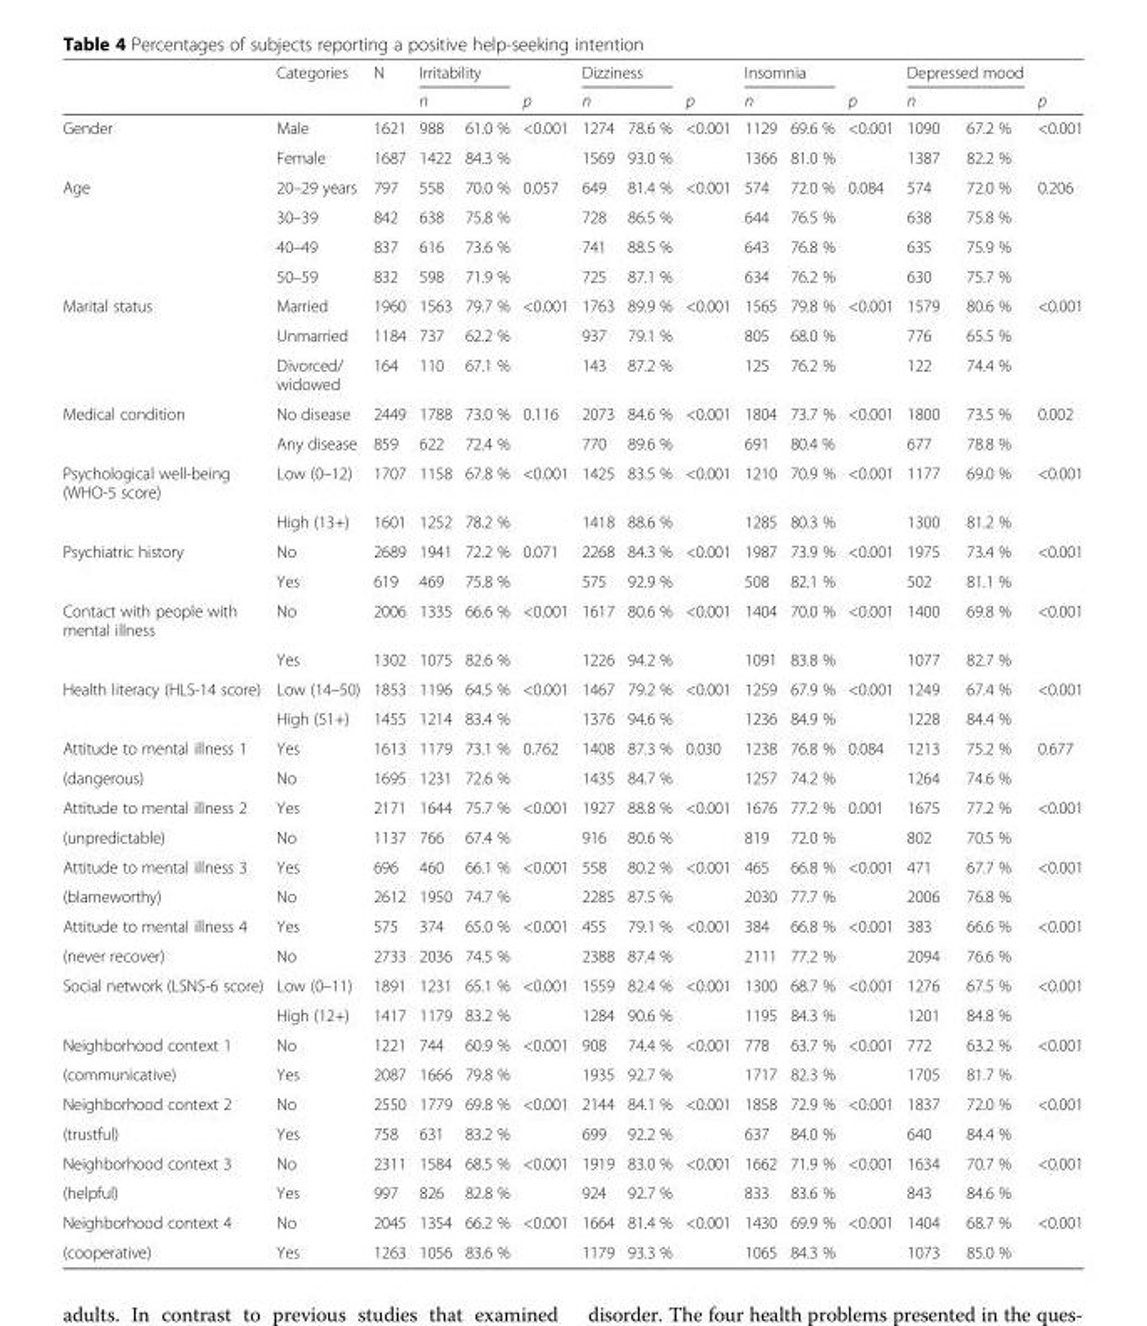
<table><thead><tr><td rowspan="2"></td><td rowspan="2">Categories</td><td rowspan="2">N</td><td colspan="2">Irritability</td><td rowspan="2">p</td><td colspan="2">Dizziness</td><td rowspan="2">p</td><td colspan="2">Insomnia</td><td rowspan="2">p</td><td colspan="2">Depressed mood</td><td rowspan="2">p</td></tr><tr><td>n</td><td></td><td>n</td><td></td><td>n</td><td></td><td>n</td><td></td></tr></thead><tbody><tr><td rowspan="2">Gender</td><td>Male</td><td>1621</td><td>988</td><td>61.0 %</td><td>&lt;0.001</td><td>1274</td><td>78.6 %</td><td>&lt;0.001</td><td>1129</td><td>69.6 %</td><td>&lt;0.001</td><td>1090</td><td>67.2 %</td><td>&lt;0.001</td></tr><tr><td>Female</td><td>1687</td><td>1422</td><td>84.3 %</td><td></td><td>1569</td><td>93.0 %</td><td></td><td>1366</td><td>81.0 %</td><td></td><td>1387</td><td>82.2 %</td><td></td></tr><tr><td rowspan="4">Age</td><td>20–29 years</td><td>797</td><td>558</td><td>70.0 %</td><td>0.057</td><td>649</td><td>81.4 %</td><td>&lt;0.001</td><td>574</td><td>72.0 %</td><td>0.084</td><td>574</td><td>72.0 %</td><td>0.206</td></tr><tr><td>30–39</td><td>842</td><td>638</td><td>75.8 %</td><td></td><td>728</td><td>86.5 %</td><td></td><td>644</td><td>76.5 %</td><td></td><td>638</td><td>75.8 %</td><td></td></tr><tr><td>40–49</td><td>837</td><td>616</td><td>73.6 %</td><td></td><td>741</td><td>88.5 %</td><td></td><td>643</td><td>76.8 %</td><td></td><td>635</td><td>75.9 %</td><td></td></tr><tr><td>50–59</td><td>832</td><td>598</td><td>71.9 %</td><td></td><td>725</td><td>87.1 %</td><td></td><td>634</td><td>76.2 %</td><td></td><td>630</td><td>75.7 %</td><td></td></tr><tr><td rowspan="3">Marital status</td><td>Married</td><td>1960</td><td>1563</td><td>79.7 %</td><td>&lt;0.001</td><td>1763</td><td>89.9 %</td><td>&lt;0.001</td><td>1565</td><td>79.8 %</td><td>&lt;0.001</td><td>1579</td><td>80.6 %</td><td>&lt;0.001</td></tr><tr><td>Unmarried</td><td>1184</td><td>737</td><td>62.2 %</td><td></td><td>937</td><td>79.1 %</td><td></td><td>805</td><td>68.0 %</td><td></td><td>776</td><td>65.5 %</td><td></td></tr><tr><td>Divorced/ widowed</td><td>164</td><td>110</td><td>67.1 %</td><td></td><td>143</td><td>87.2 %</td><td></td><td>125</td><td>76.2 %</td><td></td><td>122</td><td>74.4 %</td><td></td></tr><tr><td rowspan="2">Medical condition</td><td>No disease</td><td>2449</td><td>1788</td><td>73.0 %</td><td>0.116</td><td>2073</td><td>84.6 %</td><td>&lt;0.001</td><td>1804</td><td>73.7 %</td><td>&lt;0.001</td><td>1800</td><td>73.5 %</td><td>0.002</td></tr><tr><td>Any disease</td><td>859</td><td>622</td><td>72.4 %</td><td></td><td>770</td><td>89.6 %</td><td></td><td>691</td><td>80.4 %</td><td></td><td>677</td><td>78.8 %</td><td></td></tr><tr><td rowspan="2">Psychological well-being (WHO-5 score)</td><td>Low (0–12)</td><td>1707</td><td>1158</td><td>67.8 %</td><td>&lt;0.001</td><td>1425</td><td>83.5 %</td><td>&lt;0.001</td><td>1210</td><td>70.9 %</td><td>&lt;0.001</td><td>1177</td><td>69.0 %</td><td>&lt;0.001</td></tr><tr><td>High (13+)</td><td>1601</td><td>1252</td><td>78.2 %</td><td></td><td>1418</td><td>88.6 %</td><td></td><td>1285</td><td>80.3 %</td><td></td><td>1300</td><td>81.2 %</td><td></td></tr><tr><td rowspan="2">Psychiatric history</td><td>No</td><td>2689</td><td>1941</td><td>72.2 %</td><td>0.071</td><td>2268</td><td>84.3 %</td><td>&lt;0.001</td><td>1987</td><td>73.9 %</td><td>&lt;0.001</td><td>1975</td><td>73.4 %</td><td>&lt;0.001</td></tr><tr><td>Yes</td><td>619</td><td>469</td><td>75.8 %</td><td></td><td>575</td><td>92.9 %</td><td></td><td>508</td><td>82.1 %</td><td></td><td>502</td><td>81.1 %</td><td></td></tr><tr><td rowspan="2">Contact with people with mental illness</td><td>No</td><td>2006</td><td>1335</td><td>66.6 %</td><td>&lt;0.001</td><td>1617</td><td>80.6 %</td><td>&lt;0.001</td><td>1404</td><td>70.0 %</td><td>&lt;0.001</td><td>1400</td><td>69.8 %</td><td>&lt;0.001</td></tr><tr><td>Yes</td><td>1302</td><td>1075</td><td>82.6 %</td><td></td><td>1226</td><td>94.2 %</td><td></td><td>1091</td><td>83.8 %</td><td></td><td>1077</td><td>82.7 %</td><td></td></tr><tr><td rowspan="2">Health literacy (HLS-14 score)</td><td>Low (14–50)</td><td>1853</td><td>1196</td><td>64.5 %</td><td>&lt;0.001</td><td>1467</td><td>79.2 %</td><td>&lt;0.001</td><td>1259</td><td>67.9 %</td><td>&lt;0.001</td><td>1249</td><td>67.4 %</td><td>&lt;0.001</td></tr><tr><td>High (51+)</td><td>1455</td><td>1214</td><td>83.4 %</td><td></td><td>1376</td><td>94.6 %</td><td></td><td>1236</td><td>84.9 %</td><td></td><td>1228</td><td>84.4 %</td><td></td></tr><tr><td>Attitude to mental illness 1</td><td>Yes</td><td>1613</td><td>1179</td><td>73.1 %</td><td>0.762</td><td>1408</td><td>87.3 %</td><td>0.030</td><td>1238</td><td>76.8 %</td><td>0.084</td><td>1213</td><td>75.2 %</td><td>0.677</td></tr><tr><td>(dangerous)</td><td>No</td><td>1695</td><td>1231</td><td>72.6 %</td><td></td><td>1435</td><td>84.7 %</td><td></td><td>1257</td><td>74.2 %</td><td></td><td>1264</td><td>74.6 %</td><td></td></tr><tr><td>Attitude to mental illness 2</td><td>Yes</td><td>2171</td><td>1644</td><td>75.7 %</td><td>&lt;0.001</td><td>1927</td><td>88.8 %</td><td>&lt;0.001</td><td>1676</td><td>77.2 %</td><td>0.001</td><td>1675</td><td>77.2 %</td><td>&lt;0.001</td></tr><tr><td>(unpredictable)</td><td>No</td><td>1137</td><td>766</td><td>67.4 %</td><td></td><td>916</td><td>80.6 %</td><td></td><td>819</td><td>72.0 %</td><td></td><td>802</td><td>70.5 %</td><td></td></tr><tr><td>Attitude to mental illness 3</td><td>Yes</td><td>696</td><td>460</td><td>66.1 %</td><td>&lt;0.001</td><td>558</td><td>80.2 %</td><td>&lt;0.001</td><td>465</td><td>66.8 %</td><td>&lt;0.001</td><td>471</td><td>67.7 %</td><td>&lt;0.001</td></tr><tr><td>(blameworthy)</td><td>No</td><td>2612</td><td>1950</td><td>74.7 %</td><td></td><td>2285</td><td>87.5 %</td><td></td><td>2030</td><td>77.7 %</td><td></td><td>2006</td><td>76.8 %</td><td></td></tr><tr><td>Attitude to mental illness 4</td><td>Yes</td><td>575</td><td>374</td><td>65.0 %</td><td>&lt;0.001</td><td>455</td><td>79.1 %</td><td>&lt;0.001</td><td>384</td><td>66.8 %</td><td>&lt;0.001</td><td>383</td><td>66.6 %</td><td>&lt;0.001</td></tr><tr><td>(never recover)</td><td>No</td><td>2733</td><td>2036</td><td>74.5 %</td><td></td><td>2388</td><td>87.4 %</td><td></td><td>2111</td><td>77.2 %</td><td></td><td>2094</td><td>76.6 %</td><td></td></tr><tr><td rowspan="2">Social network (LSNS-6 score)</td><td>Low (0–11)</td><td>1891</td><td>1231</td><td>65.1 %</td><td>&lt;0.001</td><td>1559</td><td>82.4 %</td><td>&lt;0.001</td><td>1300</td><td>68.7 %</td><td>&lt;0.001</td><td>1276</td><td>67.5 %</td><td>&lt;0.001</td></tr><tr><td>High (12+)</td><td>1417</td><td>1179</td><td>83.2 %</td><td></td><td>1284</td><td>90.6 %</td><td></td><td>1195</td><td>84.3 %</td><td></td><td>1201</td><td>84.8 %</td><td></td></tr><tr><td>Neighborhood context 1</td><td>No</td><td>1221</td><td>744</td><td>60.9 %</td><td>&lt;0.001</td><td>908</td><td>74.4 %</td><td>&lt;0.001</td><td>778</td><td>63.7 %</td><td>&lt;0.001</td><td>772</td><td>63.2 %</td><td>&lt;0.001</td></tr><tr><td>(communicative)</td><td>Yes</td><td>2087</td><td>1666</td><td>79.8 %</td><td></td><td>1935</td><td>92.7 %</td><td></td><td>1717</td><td>82.3 %</td><td></td><td>1705</td><td>81.7 %</td><td></td></tr><tr><td>Neighborhood context 2</td><td>No</td><td>2550</td><td>1779</td><td>69.8 %</td><td>&lt;0.001</td><td>2144</td><td>84.1 %</td><td>&lt;0.001</td><td>1858</td><td>72.9 %</td><td>&lt;0.001</td><td>1837</td><td>72.0 %</td><td>&lt;0.001</td></tr><tr><td>(trustful)</td><td>Yes</td><td>758</td><td>631</td><td>83.2 %</td><td></td><td>699</td><td>92.2 %</td><td></td><td>637</td><td>84.0 %</td><td></td><td>640</td><td>84.4 %</td><td></td></tr><tr><td>Neighborhood context 3</td><td>No</td><td>2311</td><td>1584</td><td>68.5 %</td><td>&lt;0.001</td><td>1919</td><td>83.0 %</td><td>&lt;0.001</td><td>1662</td><td>71.9 %</td><td>&lt;0.001</td><td>1634</td><td>70.7 %</td><td>&lt;0.001</td></tr><tr><td>(helpful)</td><td>Yes</td><td>997</td><td>826</td><td>82.8 %</td><td></td><td>924</td><td>92.7 %</td><td></td><td>833</td><td>83.6 %</td><td></td><td>843</td><td>84.6 %</td><td></td></tr><tr><td>Neighborhood context 4</td><td>No</td><td>2045</td><td>1354</td><td>66.2 %</td><td>&lt;0.001</td><td>1664</td><td>81.4 %</td><td>&lt;0.001</td><td>1430</td><td>69.9 %</td><td>&lt;0.001</td><td>1404</td><td>68.7 %</td><td>&lt;0.001</td></tr><tr><td>(cooperative)</td><td>Yes</td><td>1263</td><td>1056</td><td>83.6 %</td><td></td><td>1179</td><td>93.3 %</td><td></td><td>1065</td><td>84.3 %</td><td></td><td>1073</td><td>85.0 %</td><td></td></tr></tbody></table>